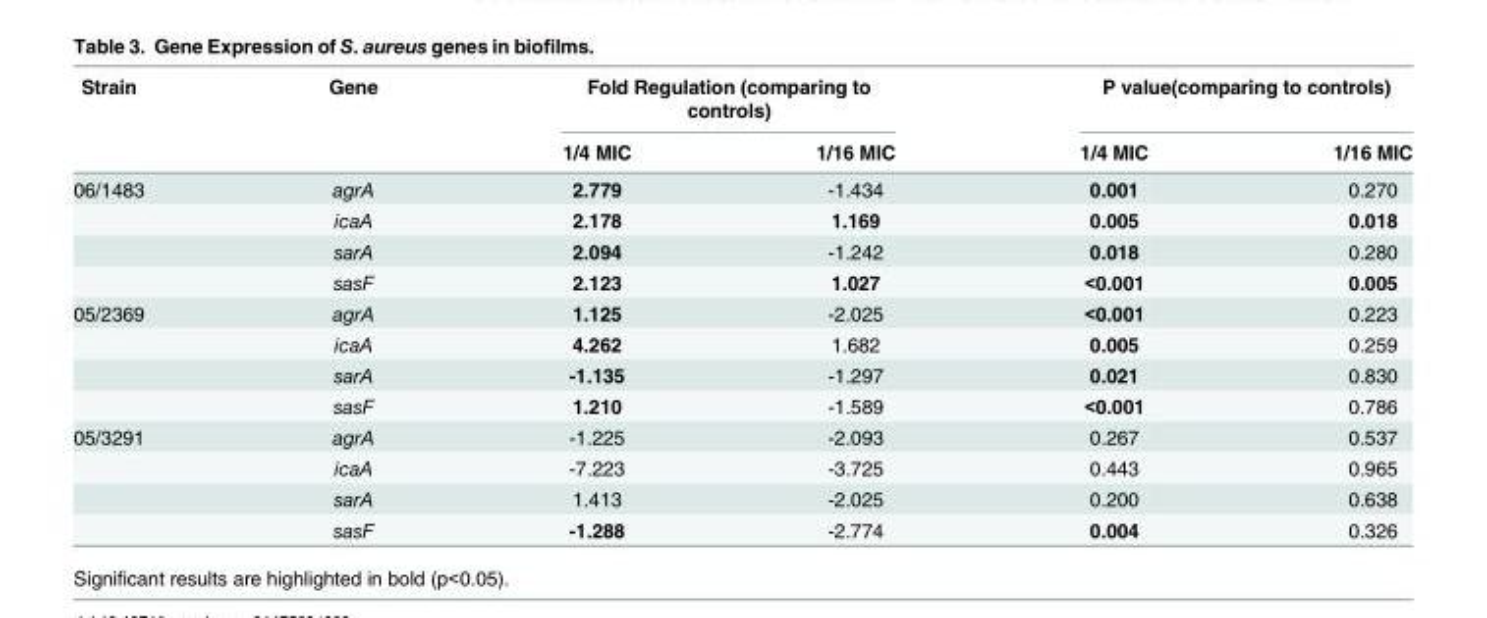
<table><thead><tr><td rowspan="2">Strain</td><td rowspan="2">Gene</td><td colspan="2">Fold Regulation (comparing to controls)</td><td colspan="2">P value(comparing to controls)</td></tr><tr><td>1/4 MIC</td><td>1/16 MIC</td><td>1/4 MIC</td><td>1/16 MIC</td></tr></thead><tbody><tr><td rowspan="4">06/1483</td><td>agrA</td><td>2.779</td><td>-1.434</td><td>0.001</td><td>0.270</td></tr><tr><td>icaA</td><td>2.178</td><td>1.169</td><td>0.005</td><td>0.018</td></tr><tr><td>sarA</td><td>2.094</td><td>-1.242</td><td>0.018</td><td>0.280</td></tr><tr><td>sasF</td><td>2.123</td><td>1.027</td><td>&lt;0.001</td><td>0.005</td></tr><tr><td rowspan="4">05/2369</td><td>agrA</td><td>1.125</td><td>-2.025</td><td>&lt;0.001</td><td>0.223</td></tr><tr><td>icaA</td><td>4.262</td><td>1.682</td><td>0.005</td><td>0.259</td></tr><tr><td>sarA</td><td>-1.135</td><td>-1.297</td><td>0.021</td><td>0.830</td></tr><tr><td>sasF</td><td>1.210</td><td>-1.589</td><td>&lt;0.001</td><td>0.786</td></tr><tr><td rowspan="4">05/3291</td><td>agrA</td><td>-1.225</td><td>-2.093</td><td>0.267</td><td>0.537</td></tr><tr><td>icaA</td><td>-7.223</td><td>-3.725</td><td>0.443</td><td>0.965</td></tr><tr><td>sarA</td><td>1.413</td><td>-2.025</td><td>0.200</td><td>0.638</td></tr><tr><td>sasF</td><td>-1.288</td><td>-2.774</td><td>0.004</td><td>0.326</td></tr></tbody></table>